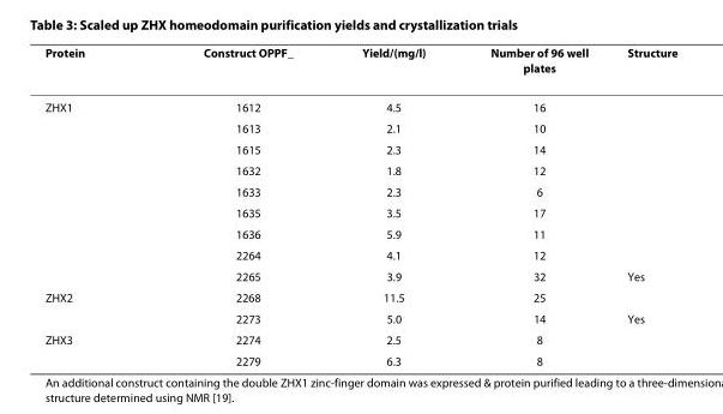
<table><thead><tr><td>Protein</td><td>Construct OPPF_</td><td>Yield/(mg/l)</td><td>Number of 96 well plates</td><td>Structure</td></tr></thead><tbody><tr><td rowspan="9">ZHX1</td><td>1612</td><td>4.5</td><td>16</td><td></td></tr><tr><td>1613</td><td>2.1</td><td>10</td><td></td></tr><tr><td>1615</td><td>2.3</td><td>14</td><td></td></tr><tr><td>1632</td><td>1.8</td><td>12</td><td></td></tr><tr><td>1633</td><td>2.3</td><td>6</td><td></td></tr><tr><td>1635</td><td>3.5</td><td>17</td><td></td></tr><tr><td>1636</td><td>5.9</td><td>11</td><td></td></tr><tr><td>2264</td><td>4.1</td><td>12</td><td></td></tr><tr><td>2265</td><td>3.9</td><td>32</td><td>Yes</td></tr><tr><td rowspan="2">ZHX2</td><td>2268</td><td>11.5</td><td>25</td><td></td></tr><tr><td>2273</td><td>5.0</td><td>14</td><td>Yes</td></tr><tr><td rowspan="2">ZHX3</td><td>2274</td><td>2.5</td><td>8</td><td></td></tr><tr><td>2279</td><td>6.3</td><td>8</td><td></td></tr></tbody></table>